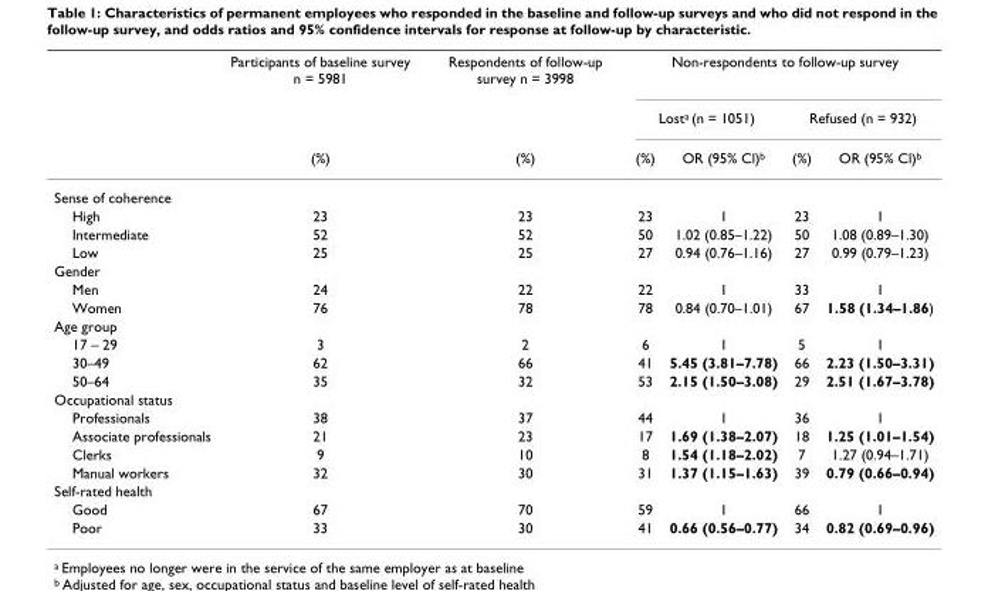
<table><thead><tr><td rowspan="3"></td><td rowspan="3">Participants of baseline survey n = 5981 (%)</td><td rowspan="3">Respondents of follow-up survey n = 3998 (%)</td><td colspan="4">Non-respondents to follow-up survey</td></tr><tr><td colspan="2">Lost<sup>a</sup> (n = 1051)</td><td colspan="2">Refused (n = 932)</td></tr><tr><td>(%)</td><td>OR (95% Cl)<sup>b</sup></td><td>(%)</td><td>OR (95% Cl)<sup>b</sup></td></tr></thead><tbody><tr><td colspan="7">Sense of coherence</td></tr><tr><td>High</td><td>23</td><td>23</td><td>23</td><td>1</td><td>23</td><td>1</td></tr><tr><td>Intermediate</td><td>52</td><td>52</td><td>50</td><td>1.02 (0.85–1.22)</td><td>50</td><td>1.08 (0.89–1.30)</td></tr><tr><td>Low</td><td>25</td><td>25</td><td>27</td><td>0.94 (0.76–1.16)</td><td>27</td><td>0.99 (0.79–1.23)</td></tr><tr><td colspan="7">Gender</td></tr><tr><td>Men</td><td>24</td><td>22</td><td>22</td><td>1</td><td>33</td><td>1</td></tr><tr><td>Women</td><td>76</td><td>78</td><td>78</td><td>0.84 (0.70–1.01)</td><td>67</td><td>1.58 (1.34–1.86)</td></tr><tr><td colspan="7">Age group</td></tr><tr><td>17 – 29</td><td>3</td><td>2</td><td>6</td><td>1</td><td>5</td><td>1</td></tr><tr><td>30–49</td><td>62</td><td>66</td><td>41</td><td>5.45 (3.81–7.78)</td><td>66</td><td>2.23 (1.50–3.31)</td></tr><tr><td>50–64</td><td>35</td><td>32</td><td>53</td><td>2.15 (1.50–3.08)</td><td>29</td><td>2.51 (1.67–3.78)</td></tr><tr><td colspan="7">Occupational status</td></tr><tr><td>Professionals</td><td>38</td><td>37</td><td>44</td><td>1</td><td>36</td><td>1</td></tr><tr><td>Associate professionals</td><td>21</td><td>23</td><td>17</td><td>1.69 (1.38–2.07)</td><td>18</td><td>1.25 (1.01–1.54)</td></tr><tr><td>Clerks</td><td>9</td><td>10</td><td>8</td><td>1.54 (1.18–2.02)</td><td>7</td><td>1.27 (0.94–1.71)</td></tr><tr><td>Manual workers</td><td>32</td><td>30</td><td>31</td><td>1.37 (1.15–1.63)</td><td>39</td><td>0.79 (0.66–0.94)</td></tr><tr><td colspan="7">Self-rated health</td></tr><tr><td>Good</td><td>67</td><td>70</td><td>59</td><td>1</td><td>66</td><td>1</td></tr><tr><td>Poor</td><td>33</td><td>30</td><td>41</td><td>0.66 (0.56–0.77)</td><td>34</td><td>0.82 (0.69–0.96)</td></tr></tbody></table>